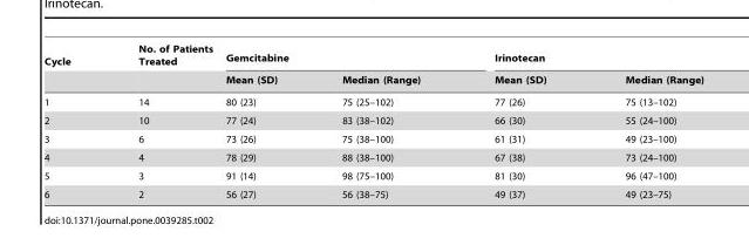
<table><thead><tr><td rowspan="2">Cycle</td><td rowspan="2">No. of Patients Treated</td><td colspan="2">Gemcitabine</td><td colspan="2">Irinotecan</td></tr><tr><td>Mean (SD)</td><td>Median (Range)</td><td>Mean (SD)</td><td>Median (Range)</td></tr></thead><tbody><tr><td>1</td><td>14</td><td>80 (23)</td><td>75 (25–102)</td><td>77 (26)</td><td>75 (13–102)</td></tr><tr><td>2</td><td>10</td><td>77 (24)</td><td>83 (38–102)</td><td>66 (30)</td><td>55 (24–100)</td></tr><tr><td>3</td><td>6</td><td>73 (26)</td><td>75 (38–100)</td><td>61 (31)</td><td>49 (23–100)</td></tr><tr><td>4</td><td>4</td><td>78 (29)</td><td>88 (38–100)</td><td>67 (38)</td><td>73 (24–100)</td></tr><tr><td>5</td><td>3</td><td>91 (14)</td><td>98 (75–100)</td><td>81 (30)</td><td>96 (47–100)</td></tr><tr><td>6</td><td>2</td><td>56 (27)</td><td>56 (38–75)</td><td>49 (37)</td><td>49 (23–75)</td></tr></tbody></table>